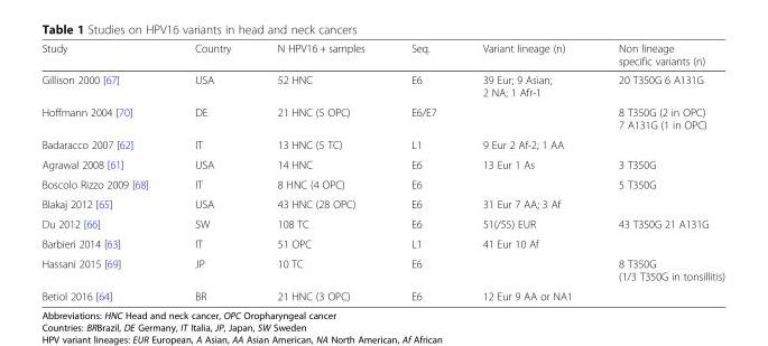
<table><thead><tr><td>Study</td><td>Country</td><td>N HPV16 + samples</td><td>Seq.</td><td>Variant lineage (n)</td><td>Non lineage specific variants (n)</td></tr></thead><tbody><tr><td>Gillison 2000 [67]</td><td>USA</td><td>52 HNC</td><td>E6</td><td>39 Eur; 9 Asian; 2 NA; 1 Afr-1</td><td>20 T350G 6 A131G</td></tr><tr><td>Hoffmann 2004 [70]</td><td>DE</td><td>21 HNC (5 OPC)</td><td>E6/E7</td><td></td><td>8 T350G (2 in OPC) 7 A131G (1 in OPC)</td></tr><tr><td>Badaracco 2007 [62]</td><td>IT</td><td>13 HNC (5 TC)</td><td>L1</td><td>9 Eur 2 Af-2; 1 AA</td><td></td></tr><tr><td>Agrawal 2008 [61]</td><td>USA</td><td>14 HNC</td><td>E6</td><td>13 Eur 1 As</td><td>3 T350G</td></tr><tr><td>Boscolo Rizzo 2009 [68]</td><td>IT</td><td>8 HNC (4 OPC)</td><td>E6</td><td></td><td>5 T350G</td></tr><tr><td>Blakaj 2012 [65]</td><td>USA</td><td>43 HNC (28 OPC)</td><td>E6</td><td>31 Eur 7 AA; 3 Af</td><td></td></tr><tr><td>Du 2012 [66]</td><td>SW</td><td>108 TC</td><td>E6</td><td>51(/55) EUR</td><td>43 T350G 21 A131G</td></tr><tr><td>Barbieri 2014 [63]</td><td>IT</td><td>51 OPC</td><td>L1</td><td>41 Eur 10 Af</td><td></td></tr><tr><td>Hassani 2015 [69]</td><td>JP</td><td>10 TC</td><td>E6</td><td></td><td>8 T350G (1/3 T350G in tonsillitis)</td></tr><tr><td>Betiol 2016 [64]</td><td>BR</td><td>21 HNC (3 OPC)</td><td>E6</td><td>12 Eur 9 AA or NA1</td><td></td></tr></tbody></table>